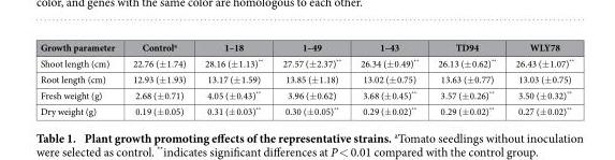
<table><thead><tr><td>Growth parameter</td><td>Control<sup>a</sup></td><td>1–18</td><td>1–49</td><td>1–43</td><td>TD94</td><td>WLY78</td></tr></thead><tbody><tr><td>Shoot length (cm)</td><td>22.76 (± 1.74)</td><td>28.16 (± 1.13)**</td><td>27.57 (± 2.37)**</td><td>26.34 (± 0.49)**</td><td>26.13 (± 0.62)**</td><td>26.43 (± 1.07)**</td></tr><tr><td>Root length (cm)</td><td>12.93 (± 1.93)</td><td>13.17 (± 1.59)</td><td>13.85 (± 1.18)</td><td>13.02 (± 0.75)</td><td>13.63 (± 0.77)</td><td>13.03 (± 0.75)</td></tr><tr><td>Fresh weight (g)</td><td>2.68 (± 0.71)</td><td>4.05 (± 0.43)**</td><td>3.96 (± 0.62)</td><td>3.68 (± 0.45)**</td><td>3.57 (± 0.26)**</td><td>3.50 (± 0.32)**</td></tr><tr><td>Dry weight (g)</td><td>0.19 (± 0.05)</td><td>0.31 (± 0.03)**</td><td>0.30 (± 0.05)**</td><td>0.29 (± 0.02)**</td><td>0.29 (± 0.02)**</td><td>0.27 (± 0.02)**</td></tr></tbody></table>